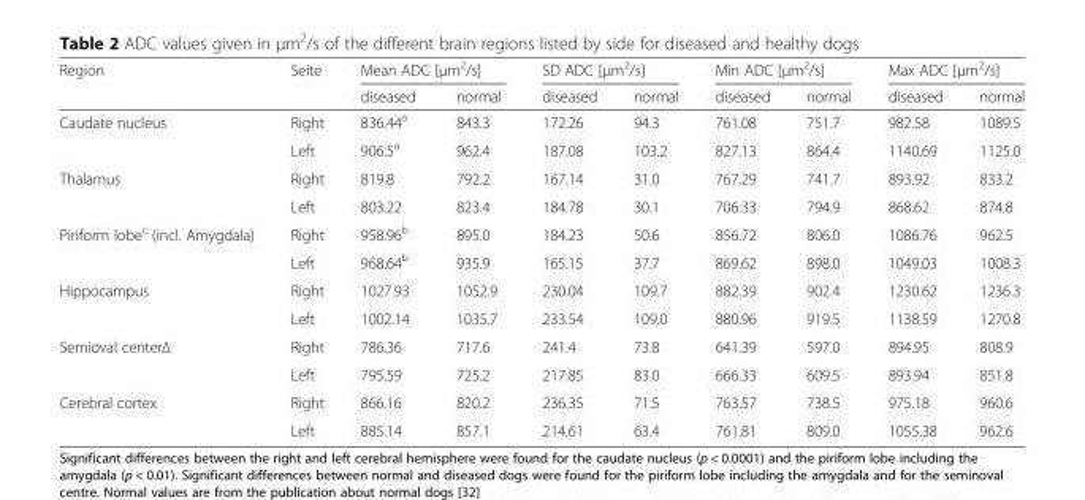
<table><thead><tr><td rowspan="2">Region</td><td rowspan="2">Seite</td><td colspan="2">Mean ADC [μm<sup>2</sup>/s]</td><td colspan="2">SD ADC [μm<sup>2</sup>/s]</td><td colspan="2">Min ADC [μm<sup>2</sup>/s]</td><td colspan="2">Max ADC [μm<sup>2</sup>/s]</td></tr><tr><td>diseased</td><td>normal</td><td>diseased</td><td>normal</td><td>diseased</td><td>normal</td><td>diseased</td><td>normal</td></tr></thead><tbody><tr><td rowspan="2">Caudate nucleus</td><td>Right</td><td>836.44<sup>a</sup></td><td>843.3</td><td>172.26</td><td>94.3</td><td>761.08</td><td>751.7</td><td>982.58</td><td>1089.5</td></tr><tr><td>Left</td><td>906.5<sup>a</sup></td><td>962.4</td><td>187.08</td><td>103.2</td><td>827.13</td><td>864.4</td><td>1140.69</td><td>1125.0</td></tr><tr><td rowspan="2">Thalamus</td><td>Right</td><td>819.8</td><td>792.2</td><td>167.14</td><td>31.0</td><td>767.29</td><td>741.7</td><td>893.92</td><td>833.2</td></tr><tr><td>Left</td><td>803.22</td><td>823.4</td><td>184.78</td><td>30.1</td><td>706.33</td><td>794.9</td><td>868.62</td><td>874.8</td></tr><tr><td rowspan="2">Piriform lobe<sup>c</sup> (incl. Amygdala)</td><td>Right</td><td>958.96<sup>b</sup></td><td>895.0</td><td>184.23</td><td>50.6</td><td>856.72</td><td>806.0</td><td>1086.76</td><td>962.5</td></tr><tr><td>Left</td><td>968.64<sup>b</sup></td><td>935.9</td><td>165.15</td><td>37.7</td><td>869.62</td><td>898.0</td><td>1049.03</td><td>1008.3</td></tr><tr><td rowspan="2">Hippocampus</td><td>Right</td><td>1027.93</td><td>1052.9</td><td>230.04</td><td>109.7</td><td>882.39</td><td>902.4</td><td>1230.62</td><td>1236.3</td></tr><tr><td>Left</td><td>1002.14</td><td>1035.7</td><td>233.54</td><td>109.0</td><td>880.96</td><td>919.5</td><td>1138.59</td><td>1270.8</td></tr><tr><td rowspan="2">Semioval centerΔ</td><td>Right</td><td>786.36</td><td>717.6</td><td>241.4</td><td>73.8</td><td>641.39</td><td>597.0</td><td>894.95</td><td>808.9</td></tr><tr><td>Left</td><td>795.59</td><td>725.2</td><td>217.85</td><td>83.0</td><td>666.33</td><td>609.5</td><td>893.94</td><td>851.8</td></tr><tr><td rowspan="2">Cerebral cortex</td><td>Right</td><td>866.16</td><td>820.2</td><td>236.35</td><td>71.5</td><td>763.57</td><td>738.5</td><td>975.18</td><td>960.6</td></tr><tr><td>Left</td><td>885.14</td><td>857.1</td><td>214.61</td><td>63.4</td><td>761.81</td><td>809.0</td><td>1055.38</td><td>962.6</td></tr></tbody></table>